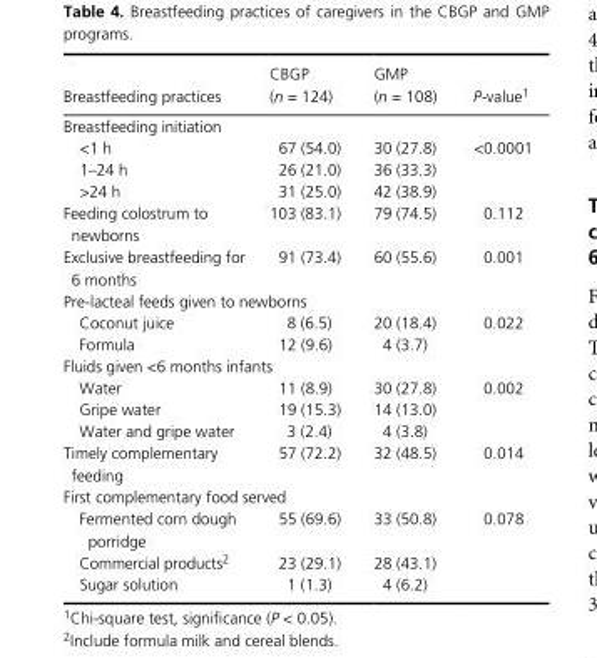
<table><thead><tr><td>Breastfeeding practices</td><td>CBGP (n = 124)</td><td>GMP (n = 108)</td><td>P-value1</td></tr></thead><tbody><tr><td colspan="4">Breastfeeding initiation</td></tr><tr><td>&lt;1 h</td><td>67 (54.0)</td><td>30 (27.8)</td><td rowspan="3">&lt;0.0001</td></tr><tr><td>1–24 h</td><td>26 (21.0)</td><td>36 (33.3)</td></tr><tr><td>&gt;24 h</td><td>31 (25.0)</td><td>42 (38.9)</td></tr><tr><td>Feeding colostrum to newborns</td><td>103 (83.1)</td><td>79 (74.5)</td><td>0.112</td></tr><tr><td>Exclusive breastfeeding for 6 months</td><td>91 (73.4)</td><td>60 (55.6)</td><td>0.001</td></tr><tr><td colspan="4">Pre- lacteal feeds given to newborns</td></tr><tr><td>Coconut juice</td><td>8 (6.5)</td><td>20 (18.4)</td><td rowspan="2">0.022</td></tr><tr><td>Formula</td><td>12 (9.6)</td><td>4 (3.7)</td></tr><tr><td colspan="4">Fluids given &lt;6 months infants</td></tr><tr><td>Water</td><td>11 (8.9)</td><td>30 (27.8)</td><td rowspan="3">0.002</td></tr><tr><td>Gripe water</td><td>19 (15.3)</td><td>14 (13.0)</td></tr><tr><td>Water and gripe water</td><td>3 (2.4)</td><td>4 (3.8)</td></tr><tr><td>Timely complementary feeding</td><td>57 (72.2)</td><td>32 (48.5)</td><td>0.014</td></tr><tr><td colspan="4">First complementary food served</td></tr><tr><td>Fermented corn dough porridge</td><td>55 (69.6)</td><td>33 (50.8)</td><td rowspan="3">0.078</td></tr><tr><td>Commercial products2</td><td>23 (29.1)</td><td>28 (43.1)</td></tr><tr><td>Sugar solution</td><td>1 (1.3)</td><td>4 (6.2)</td></tr></tbody></table>